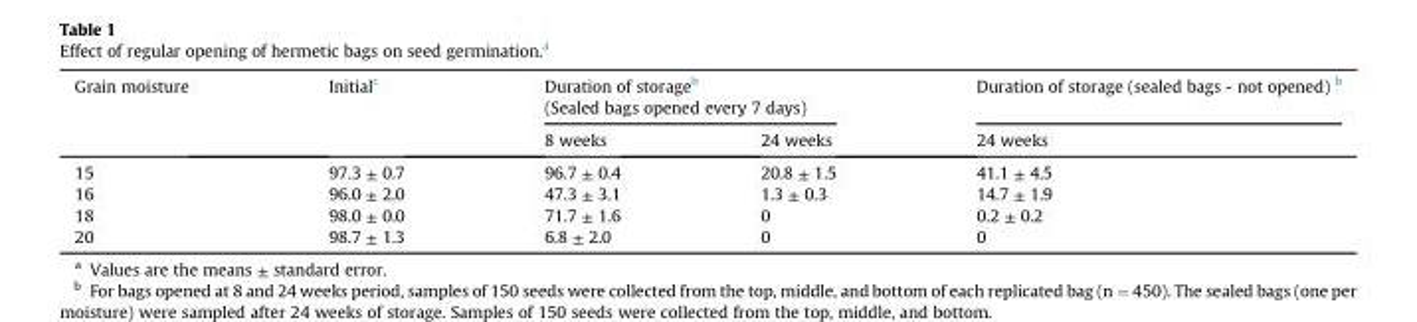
<table><thead><tr><td rowspan="2">Grain moisture</td><td rowspan="2">Initial<sup>c</sup></td><td colspan="2">Duration of storage<sup>b</sup> (Sealed bags opened every 7 days)</td><td rowspan="2">Duration of storage (sealed bags - not opened) b 24 weeks</td></tr><tr><td>8 weeks</td><td>24 weeks</td></tr></thead><tbody><tr><td>15</td><td>97.3 ± 0.7</td><td>96.7 ± 0.4</td><td>20.8 ± 1.5</td><td>41.1 ± 4.5</td></tr><tr><td>16</td><td>96.0 ± 2.0</td><td>47.3 ± 3.1</td><td>1.3 ± 0.3</td><td>14.7 ± 1.9</td></tr><tr><td>18</td><td>98.0 ± 0.0</td><td>71.7 ± 1.6</td><td>0</td><td>0.2 ± 0.2</td></tr><tr><td>20</td><td>98.7 ± 1.3</td><td>6.8 ± 2.0</td><td>0</td><td>0</td></tr></tbody></table>